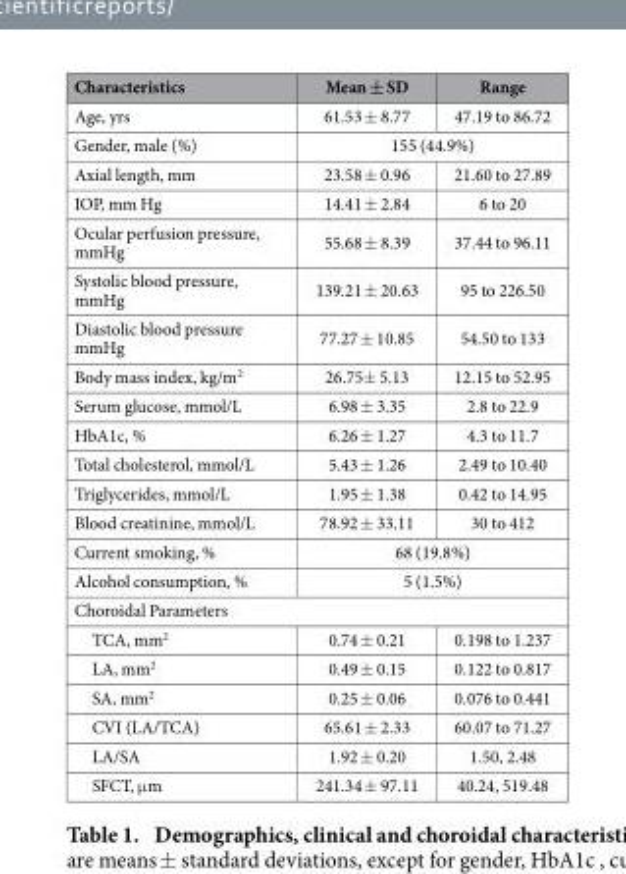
<table><thead><tr><td>Characteristics</td><td>Mean ± SD</td><td>Range</td></tr></thead><tbody><tr><td>Age, yrs</td><td>61.53 ± 8.77</td><td>47.19 to 86.72</td></tr><tr><td>Gender, male (%)</td><td colspan="2">155 (44.9%)</td></tr><tr><td>Axial length, mm</td><td>23.58 ± 0.96</td><td>21.60 to 27.89</td></tr><tr><td>IOP, mm Hg</td><td>14.41 ± 2.84</td><td>6 to 20</td></tr><tr><td>Ocular perfusion pressure, mmHg</td><td>55.68 ± 8.39</td><td>37.44 to 96.11</td></tr><tr><td>Systolic blood pressure, mmHg</td><td>139.21 ± 20.63</td><td>95 to 226.50</td></tr><tr><td>Diastolic blood pressure mmHg</td><td>77.27 ± 10.85</td><td>54.50 to 133</td></tr><tr><td>Body mass index, kg/m<sup>2</sup></td><td>26.75± 5.13</td><td>12.15 to 52.95</td></tr><tr><td>Serum glucose, mmol/L</td><td>6.98 ± 3.35</td><td>2.8 to 22.9</td></tr><tr><td>HbA1c, %</td><td>6.26 ± 1.27</td><td>4.3 to 11.7</td></tr><tr><td>Total cholesterol, mmol/L</td><td>5.43 ± 1.26</td><td>2.49 to 10.40</td></tr><tr><td>Triglycerides, mmol/L</td><td>1.95 ± 1.38</td><td>0.42 to 14.95</td></tr><tr><td>Blood creatinine, mmol/L</td><td>78.92 ± 33.11</td><td>30 to 412</td></tr><tr><td>Current smoking, %</td><td colspan="2">68 (19.8%)</td></tr><tr><td>Alcohol consumption, %</td><td colspan="2">5 (1.5%)</td></tr><tr><td colspan="3">Choroidal Parameters</td></tr><tr><td>TCA, mm<sup>2</sup></td><td>0.74 ± 0.21</td><td>0.198 to 1.237</td></tr><tr><td>LA, mm<sup>2</sup></td><td>0.49 ± 0.15</td><td>0.122 to 0.817</td></tr><tr><td>SA, mm<sup>2</sup></td><td>0.25 ± 0.06</td><td>0.076 to 0.441</td></tr><tr><td>CVI (LA/TCA)</td><td>65.61 ± 2.33</td><td>60.07 to 71.27</td></tr><tr><td>LA/SA</td><td>1.92 ± 0.20</td><td>1.50, 2.48</td></tr><tr><td>SFCT, μ m</td><td>241.34 ± 97.11</td><td>40.24, 519.48</td></tr></tbody></table>